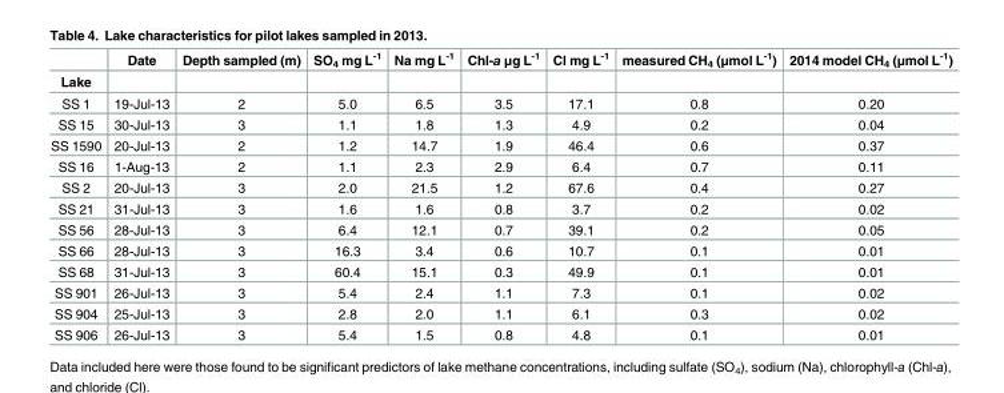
<table><thead><tr><td rowspan="2">Lake</td><td rowspan="2">Date</td><td rowspan="2">Depth sampled (m)</td><td rowspan="2">SO<sub>4</sub> mg L<sup>-1</sup></td><td rowspan="2">Na mg L<sup>-1</sup></td><td rowspan="2">Chl-a μg L<sup>-1</sup></td><td rowspan="2">Cl mg L<sup>-1</sup></td><td rowspan="2">measured CH<sub>4</sub> (μmol L<sup>-1</sup>)</td><td rowspan="2">2014 model CH<sub>4</sub> (μmol L<sup>-1</sup>)</td></tr><tr></tr></thead><tbody><tr><td>SS 1</td><td>19-Jul-13</td><td>2</td><td>5.0</td><td>6.5</td><td>3.5</td><td>17.1</td><td>0.8</td><td>0.20</td></tr><tr><td>SS 15</td><td>30-Jul-13</td><td>3</td><td>1.1</td><td>1.8</td><td>1.3</td><td>4.9</td><td>0.2</td><td>0.04</td></tr><tr><td>SS 1590</td><td>20-Jul-13</td><td>2</td><td>1.2</td><td>14.7</td><td>1.9</td><td>46.4</td><td>0.6</td><td>0.37</td></tr><tr><td>SS 16</td><td>1-Aug-13</td><td>2</td><td>1.1</td><td>2.3</td><td>2.9</td><td>6.4</td><td>0.7</td><td>0.11</td></tr><tr><td>SS 2</td><td>20-Jul-13</td><td>3</td><td>2.0</td><td>21.5</td><td>1.2</td><td>67.6</td><td>0.4</td><td>0.27</td></tr><tr><td>SS 21</td><td>31-Jul-13</td><td>3</td><td>1.6</td><td>1.6</td><td>0.8</td><td>3.7</td><td>0.2</td><td>0.02</td></tr><tr><td>SS 56</td><td>28-Jul-13</td><td>3</td><td>6.4</td><td>12.1</td><td>0.7</td><td>39.1</td><td>0.2</td><td>0.05</td></tr><tr><td>SS 66</td><td>28-Jul-13</td><td>3</td><td>16.3</td><td>3.4</td><td>0.6</td><td>10.7</td><td>0.1</td><td>0.01</td></tr><tr><td>SS 68</td><td>31-Jul-13</td><td>3</td><td>60.4</td><td>15.1</td><td>0.3</td><td>49.9</td><td>0.1</td><td>0.01</td></tr><tr><td>SS 901</td><td>26-Jul-13</td><td>3</td><td>5.4</td><td>2.4</td><td>1.1</td><td>7.3</td><td>0.1</td><td>0.02</td></tr><tr><td>SS 904</td><td>25-Jul-13</td><td>3</td><td>2.8</td><td>2.0</td><td>1.1</td><td>6.1</td><td>0.3</td><td>0.02</td></tr><tr><td>SS 906</td><td>26-Jul-13</td><td>3</td><td>5.4</td><td>1.5</td><td>0.8</td><td>4.8</td><td>0.1</td><td>0.01</td></tr></tbody></table>